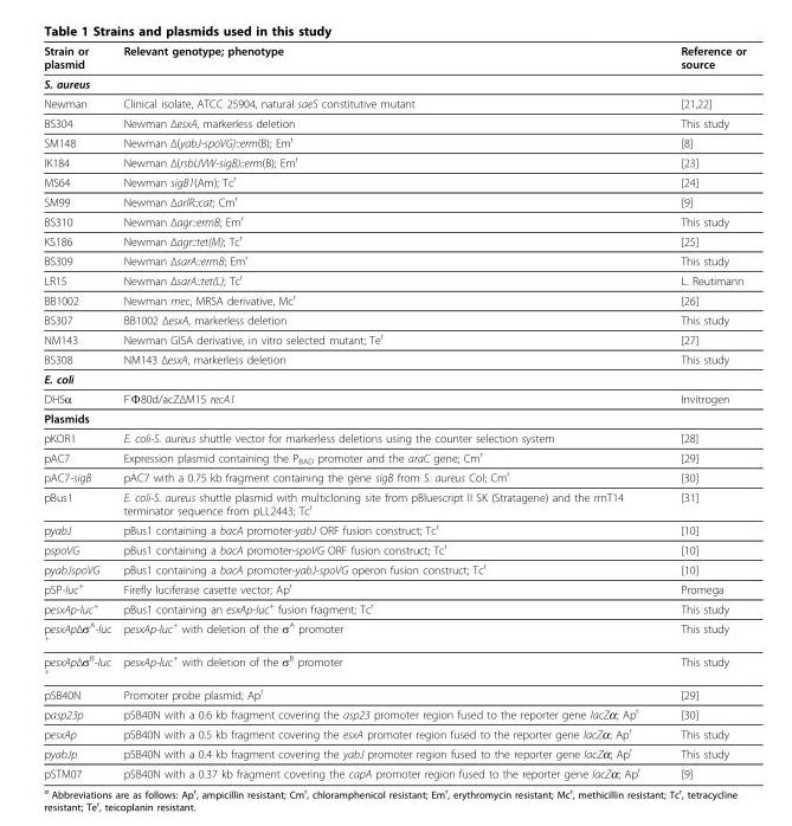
<table><thead><tr><td>Strain or plasmid</td><td>Relevant genotype; phenotype</td><td>Reference or source</td></tr></thead><tbody><tr><td colspan="3">S. aureus</td></tr><tr><td>Newman</td><td>Clinical isolate, ATCC 25904, natural saeS constitutive mutant</td><td>[21,22]</td></tr><tr><td>BS304</td><td>Newman ΔesxA, markerless deletion</td><td>This study</td></tr><tr><td>SM148</td><td>Newman Δ(yabJ-spoVG)::erm(B); Em<sup>r</sup></td><td>[8]</td></tr><tr><td>IK184</td><td>Newman Δ(rsbUVW-sigB)::erm(B); Em<sup>r</sup></td><td>[23]</td></tr><tr><td>MS64</td><td>Newman sigB1(Am); Tc<sup>r</sup></td><td>[24]</td></tr><tr><td>SM99</td><td>Newman ΔarlR::cat; Cm<sup>r</sup></td><td>[9]</td></tr><tr><td>BS310</td><td>Newman Δagr::ermB; Em<sup>r</sup></td><td>This study</td></tr><tr><td>KS186</td><td>Newman Δagr::tet(M); Tc<sup>r</sup></td><td>[25]</td></tr><tr><td>BS309</td><td>Newman ΔsarA::ermB; Em<sup>r</sup></td><td>This study</td></tr><tr><td>LR15</td><td>Newman ΔsarA::tet(L); Tc<sup>r</sup></td><td>L. Reutimann</td></tr><tr><td>BB1002</td><td>Newman mec, MRSA derivative, Mc<sup>r</sup></td><td>[26]</td></tr><tr><td>BS307</td><td>BB1002 ΔesxA, markerless deletion</td><td>This study</td></tr><tr><td>NM143</td><td>Newman GISA derivative, in vitro selected mutant; Te<sup>r</sup></td><td>[27]</td></tr><tr><td>BS308</td><td>NM143 ΔesxA, markerless deletion</td><td>This study</td></tr><tr><td colspan="3">E. coli</td></tr><tr><td>DH5α</td><td>F<sup>-</sup>Φ80d/acZΔM15 recA1</td><td>Invitrogen</td></tr><tr><td colspan="3">Plasmids</td></tr><tr><td>pKOR1</td><td>E. coli-S. aureus shuttle vector for markerless deletions using the counter selection system</td><td>[28]</td></tr><tr><td>pAC7</td><td>Expression plasmid containing the P<sub>BAD</sub> promoter and the araC gene; Cm<sup>r</sup></td><td>[29]</td></tr><tr><td>pAC7-sigB</td><td>pAC7 with a 0.75 kb fragment containing the gene sigB from S. aureus Col; Cm<sup>r</sup></td><td>[30]</td></tr><tr><td>pBus1</td><td>E. coli-S. aureus shuttle plasmid with multicloning site from pBluescript II SK (Stratagene) and the rrnT14 terminator sequence from pLL2443; Tc<sup>r</sup></td><td>[31]</td></tr><tr><td>pyabJ</td><td>pBus1 containing a bacA promoter-yabJ ORF fusion construct; Tc<sup>r</sup></td><td>[10]</td></tr><tr><td>pspoVG</td><td>pBus1 containing a bacA promoter-spoVG ORF fusion construct; Tc<sup>r</sup></td><td>[10]</td></tr><tr><td>pyabJspoVG</td><td>pBus1 containing a bacA promoter-yabJ-spoVG operon fusion construct; Tc<sup>r</sup></td><td>[10]</td></tr><tr><td>pSP-luc<sup>+</sup></td><td>Firefly luciferase casette vector; Ap<sup>r</sup></td><td>Promega</td></tr><tr><td>pesxAp-luc<sup>+</sup></td><td>pBus1 containing an esxAp-luc<sup>+</sup> fusion fragment; Tc<sup>r</sup></td><td>This study</td></tr><tr><td>pesxApΔσ<sup>A</sup>-luc <sup>+</sup></td><td>pesxAp-luc<sup>+</sup> with deletion of the σ<sup>A</sup> promoter</td><td>This study</td></tr><tr><td>pesxApΔσ<sup>B</sup>-luc <sup>+</sup></td><td>pesxAp-luc<sup>+</sup> with deletion of the σ<sup>B</sup> promoter</td><td>This study</td></tr><tr><td>pSB40N</td><td>Promoter probe plasmid; Ap<sup>r</sup></td><td>[29]</td></tr><tr><td>pasp23p</td><td>pSB40N with a 0.6 kb fragment covering the asp23 promoter region fused to the reporter gene lacZα; Ap<sup>r</sup></td><td>[30]</td></tr><tr><td>pesxAp</td><td>pSB40N with a 0.5 kb fragment covering the esxA promoter region fused to the reporter gene lacZα; Ap<sup>r</sup></td><td>This study</td></tr><tr><td>pyabJp</td><td>pSB40N with a 0.4 kb fragment covering the yabJ promoter region fused to the reporter gene lacZα; Ap<sup>r</sup></td><td>This study</td></tr><tr><td>pSTM07</td><td>pSB40N with a 0.37 kb fragment covering the capA promoter region fused to the reporter gene lacZα; Ap<sup>r</sup></td><td>[9]</td></tr></tbody></table>